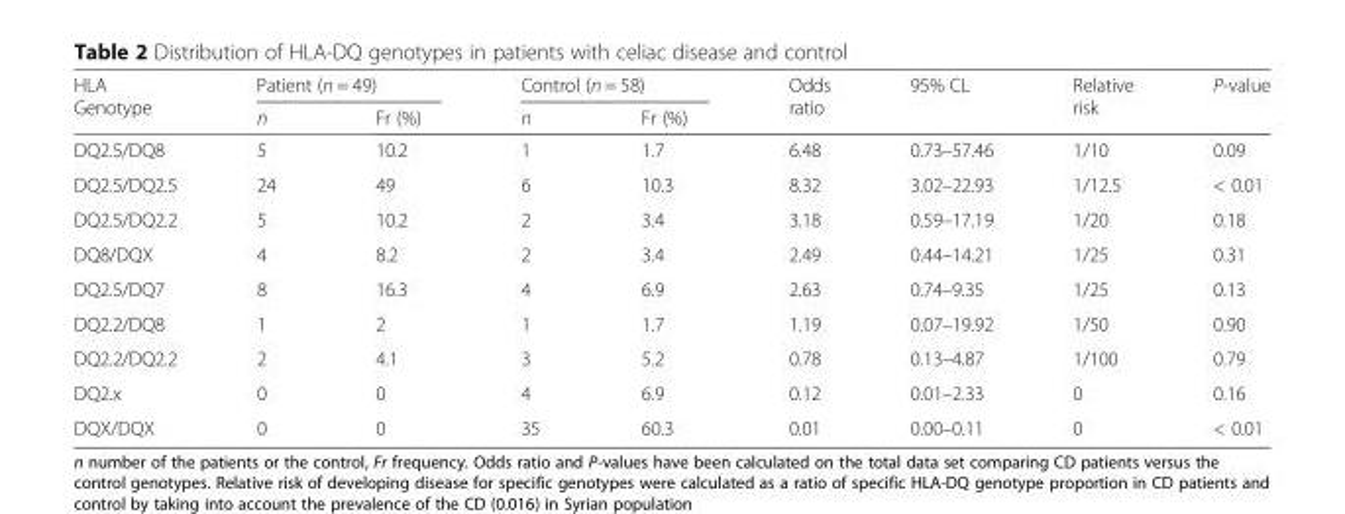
<table><thead><tr><td rowspan="2">HLA Genotype</td><td colspan="2">Patient (n = 49)</td><td colspan="2">Control (n = 58)</td><td rowspan="2">Odds ratio</td><td rowspan="2">95% CL</td><td rowspan="2">Relative risk</td><td rowspan="2">P-value</td></tr><tr><td>n</td><td>Fr (%)</td><td>n</td><td>Fr (%)</td></tr></thead><tbody><tr><td>DQ2.5/DQ8</td><td>5</td><td>10.2</td><td>1</td><td>1.7</td><td>6.48</td><td>0.73–57.46</td><td>1/10</td><td>0.09</td></tr><tr><td>DQ2.5/DQ2.5</td><td>24</td><td>49</td><td>6</td><td>10.3</td><td>8.32</td><td>3.02–22.93</td><td>1/12.5</td><td>&lt; 0.01</td></tr><tr><td>DQ2.5/DQ2.2</td><td>5</td><td>10.2</td><td>2</td><td>3.4</td><td>3.18</td><td>0.59–17.19</td><td>1/20</td><td>0.18</td></tr><tr><td>DQ8/DQX</td><td>4</td><td>8.2</td><td>2</td><td>3.4</td><td>2.49</td><td>0.44–14.21</td><td>1/25</td><td>0.31</td></tr><tr><td>DQ2.5/DQ7</td><td>8</td><td>16.3</td><td>4</td><td>6.9</td><td>2.63</td><td>0.74–9.35</td><td>1/25</td><td>0.13</td></tr><tr><td>DQ2.2/DQ8</td><td>1</td><td>2</td><td>1</td><td>1.7</td><td>1.19</td><td>0.07–19.92</td><td>1/50</td><td>0.90</td></tr><tr><td>DQ2.2/DQ2.2</td><td>2</td><td>4.1</td><td>3</td><td>5.2</td><td>0.78</td><td>0.13–4.87</td><td>1/100</td><td>0.79</td></tr><tr><td>DQ2.x</td><td>0</td><td>0</td><td>4</td><td>6.9</td><td>0.12</td><td>0.01–2.33</td><td>0</td><td>0.16</td></tr><tr><td>DQX/DQX</td><td>0</td><td>0</td><td>35</td><td>60.3</td><td>0.01</td><td>0.00–0.11</td><td>0</td><td>&lt; 0.01</td></tr></tbody></table>